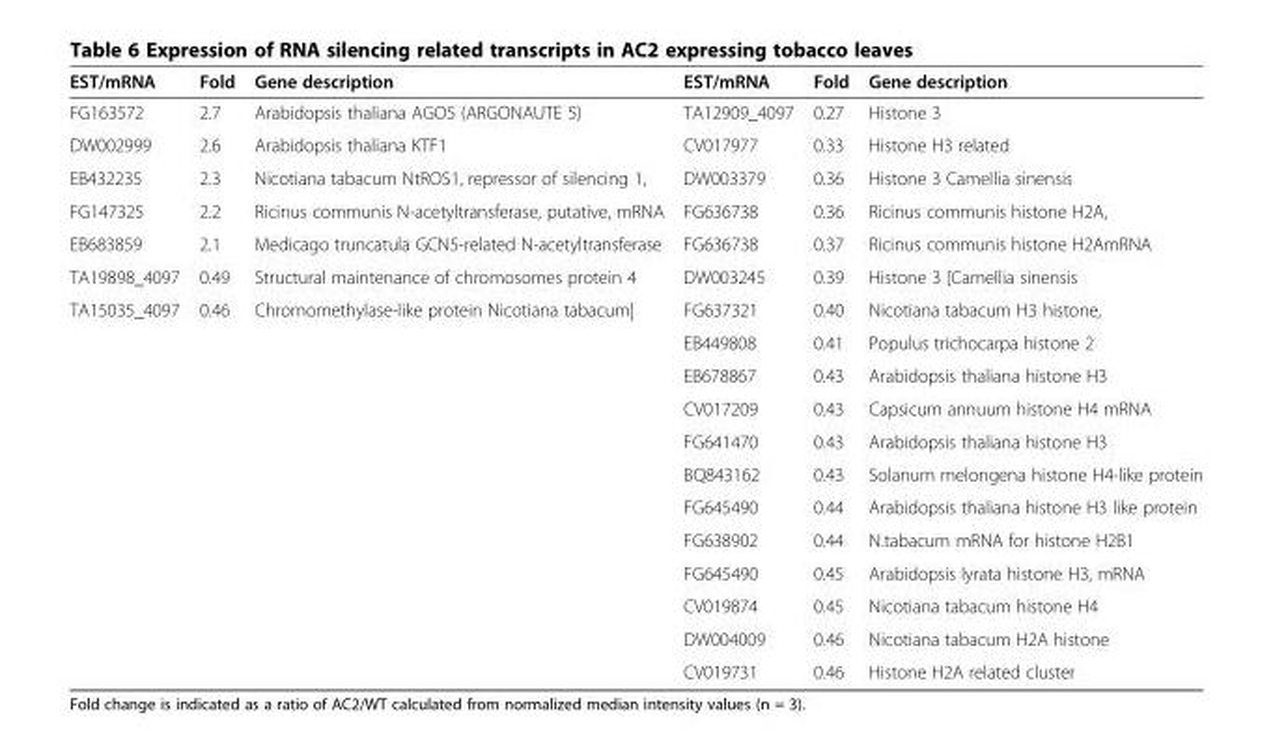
<table><thead><tr><td>EST/mRNA</td><td>Fold</td><td>Gene description</td><td>EST/mRNA</td><td>Fold</td><td>Gene description</td></tr></thead><tbody><tr><td>FG163572</td><td>2.7</td><td>Arabidopsis thaliana AGO5 (ARGONAUTE 5)</td><td>TA12909_4097</td><td>0.27</td><td>Histone 3</td></tr><tr><td>DW002999</td><td>2.6</td><td>Arabidopsis thaliana KTF1</td><td>CV017977</td><td>0.33</td><td>Histone H3 related</td></tr><tr><td>EB432235</td><td>2.3</td><td>Nicotiana tabacum NtROS1, repressor of silencing 1,</td><td>DW003379</td><td>0.36</td><td>Histone 3 Camellia sinensis</td></tr><tr><td>FG147325</td><td>2.2</td><td>Ricinus communis N-acetyltransferase, putative, mRNA</td><td>FG636738</td><td>0.36</td><td>Ricinus communis histone H2A,</td></tr><tr><td>EB683859</td><td>2.1</td><td>Medicago truncatula GCN5-related N-acetyltransferase</td><td>FG636738</td><td>0.37</td><td>Ricinus communis histone H2AmRNA</td></tr><tr><td>TA19898_4097</td><td>0.49</td><td>Structural maintenance of chromosomes protein 4</td><td>DW003245</td><td>0.39</td><td>Histone 3 [Camellia sinensis</td></tr><tr><td rowspan="12">TA15035_4097</td><td>0.46</td><td>Chromomethylase-like protein Nicotiana tabacum|</td><td>FG637321</td><td>0.40</td><td>Nicotiana tabacum H3 histone,</td></tr><tr><td></td><td></td><td>EB449808</td><td>0.41</td><td>Populus trichocarpa histone 2</td></tr><tr><td></td><td></td><td>EB678867</td><td>0.43</td><td>Arabidopsis thaliana histone H3</td></tr><tr><td></td><td></td><td>CV017209</td><td>0.43</td><td>Capsicum annuum histone H4 mRNA</td></tr><tr><td></td><td></td><td>FG641470</td><td>0.43</td><td>Arabidopsis thaliana histone H3</td></tr><tr><td></td><td></td><td>BQ843162</td><td>0.43</td><td>Solanum melongena histone H4-like protein</td></tr><tr><td></td><td></td><td>FG645490</td><td>0.44</td><td>Arabidopsis thaliana histone H3 like protein</td></tr><tr><td></td><td></td><td>FG638902</td><td>0.44</td><td>N.tabacum mRNA for histone H2B1</td></tr><tr><td></td><td></td><td>FG645490</td><td>0.45</td><td>Arabidopsis lyrata histone H3, mRNA</td></tr><tr><td></td><td></td><td>CV019874</td><td>0.45</td><td>Nicotiana tabacum histone H4</td></tr><tr><td></td><td></td><td>DW004009</td><td>0.46</td><td>Nicotiana tabacum H2A histone</td></tr><tr><td></td><td></td><td>CV019731</td><td>0.46</td><td>Histone H2A related cluster</td></tr></tbody></table>